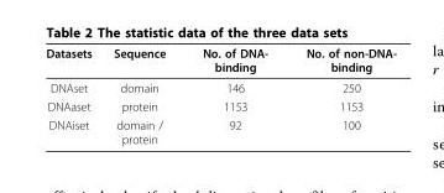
<table><thead><tr><td>Datasets</td><td>Sequence</td><td>No. of DNA- binding</td><td>No. of non-DNA- binding</td></tr></thead><tbody><tr><td>DNAset</td><td>domain</td><td>146</td><td>250</td></tr><tr><td>DNAaset</td><td>protein</td><td>1153</td><td>1153</td></tr><tr><td>DNAiset</td><td>domain / protein</td><td>92</td><td>100</td></tr></tbody></table>